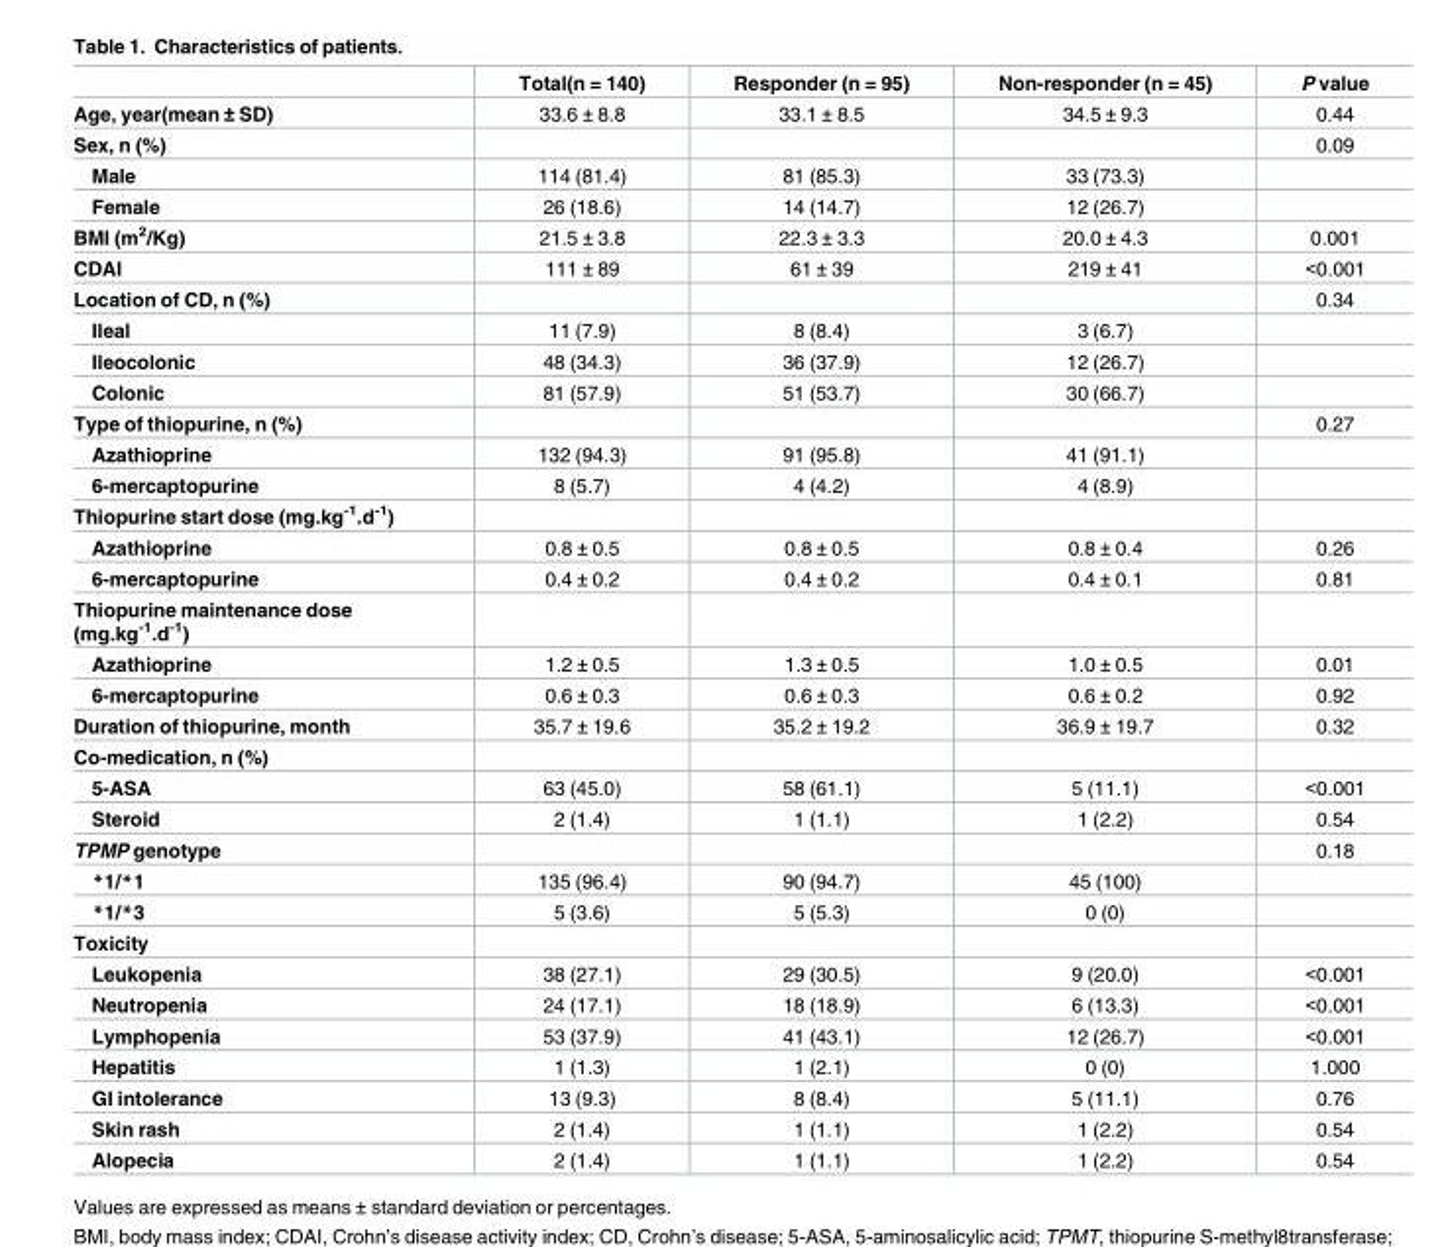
<table><thead><tr><td></td><td>Total(n = 140)</td><td>Responder (n = 95)</td><td>Non-responder (n = 45)</td><td>P value</td></tr></thead><tbody><tr><td>Age, year(mean ± SD)</td><td>33.6 ± 8.8</td><td>33.1 ± 8.5</td><td>34.5 ± 9.3</td><td>0.44</td></tr><tr><td>Sex, n (%)</td><td></td><td></td><td></td><td>0.09</td></tr><tr><td>Male</td><td>114 (81.4)</td><td>81 (85.3)</td><td>33 (73.3)</td><td></td></tr><tr><td>Female</td><td>26 (18.6)</td><td>14 (14.7)</td><td>12 (26.7)</td><td></td></tr><tr><td>BMI (m<sup>2</sup>/Kg)</td><td>21.5 ± 3.8</td><td>22.3 ± 3.3</td><td>20.0 ± 4.3</td><td>0.001</td></tr><tr><td>CDAI</td><td>111 ± 89</td><td>61 ± 39</td><td>219 ± 41</td><td>&lt;0.001</td></tr><tr><td>Location of CD, n (%)</td><td></td><td></td><td></td><td>0.34</td></tr><tr><td>Ileal</td><td>11 (7.9)</td><td>8 (8.4)</td><td>3 (6.7)</td><td></td></tr><tr><td>Ileocolonic</td><td>48 (34.3)</td><td>36 (37.9)</td><td>12 (26.7)</td><td></td></tr><tr><td>Colonic</td><td>81 (57.9)</td><td>51 (53.7)</td><td>30 (66.7)</td><td></td></tr><tr><td>Type of thiopurine, n (%)</td><td></td><td></td><td></td><td>0.27</td></tr><tr><td>Azathioprine</td><td>132 (94.3)</td><td>91 (95.8)</td><td>41 (91.1)</td><td></td></tr><tr><td>6-mercaptopurine</td><td>8 (5.7)</td><td>4 (4.2)</td><td>4 (8.9)</td><td></td></tr><tr><td colspan="5">Thiopurine start dose (mg.kg<sup>-1</sup>.d<sup>-1</sup>)</td></tr><tr><td>Azathioprine</td><td>0.8 ± 0.5</td><td>0.8 ± 0.5</td><td>0.8 ± 0.4</td><td>0.26</td></tr><tr><td>6-mercaptopurine</td><td>0.4 ± 0.2</td><td>0.4 ± 0.2</td><td>0.4 ± 0.1</td><td>0.81</td></tr><tr><td colspan="5">Thiopurine maintenance dose (mg.kg<sup>-1</sup>.d<sup>-1</sup>)</td></tr><tr><td>Azathioprine</td><td>1.2 ± 0.5</td><td>1.3 ± 0.5</td><td>1.0 ± 0.5</td><td>0.01</td></tr><tr><td>6-mercaptopurine</td><td>0.6 ± 0.3</td><td>0.6 ± 0.3</td><td>0.6 ± 0.2</td><td>0.92</td></tr><tr><td>Duration of thiopurine, month</td><td>35.7 ± 19.6</td><td>35.2 ± 19.2</td><td>36.9 ± 19.7</td><td>0.32</td></tr><tr><td colspan="5">Co-medication, n (%)</td></tr><tr><td>5-ASA</td><td>63 (45.0)</td><td>58 (61.1)</td><td>5 (11.1)</td><td>&lt;0.001</td></tr><tr><td>Steroid</td><td>2 (1.4)</td><td>1 (1.1)</td><td>1 (2.2)</td><td>0.54</td></tr><tr><td>TPMP genotype</td><td></td><td></td><td></td><td>0.18</td></tr><tr><td>*1/*1</td><td>135 (96.4)</td><td>90 (94.7)</td><td>45 (100)</td><td></td></tr><tr><td>*1/*3</td><td>5 (3.6)</td><td>5 (5.3)</td><td>0 (0)</td><td></td></tr><tr><td colspan="5">Toxicity</td></tr><tr><td>Leukopenia</td><td>38 (27.1)</td><td>29 (30.5)</td><td>9 (20.0)</td><td>&lt;0.001</td></tr><tr><td>Neutropenia</td><td>24 (17.1)</td><td>18 (18.9)</td><td>6 (13.3)</td><td>&lt;0.001</td></tr><tr><td>Lymphopenia</td><td>53 (37.9)</td><td>41 (43.1)</td><td>12 (26.7)</td><td>&lt;0.001</td></tr><tr><td>Hepatitis</td><td>1 (1.3)</td><td>1 (2.1)</td><td>0 (0)</td><td>1.000</td></tr><tr><td>GI intolerance</td><td>13 (9.3)</td><td>8 (8.4)</td><td>5 (11.1)</td><td>0.76</td></tr><tr><td>Skin rash</td><td>2 (1.4)</td><td>1 (1.1)</td><td>1 (2.2)</td><td>0.54</td></tr><tr><td>Alopecia</td><td>2 (1.4)</td><td>1 (1.1)</td><td>1 (2.2)</td><td>0.54</td></tr></tbody></table>